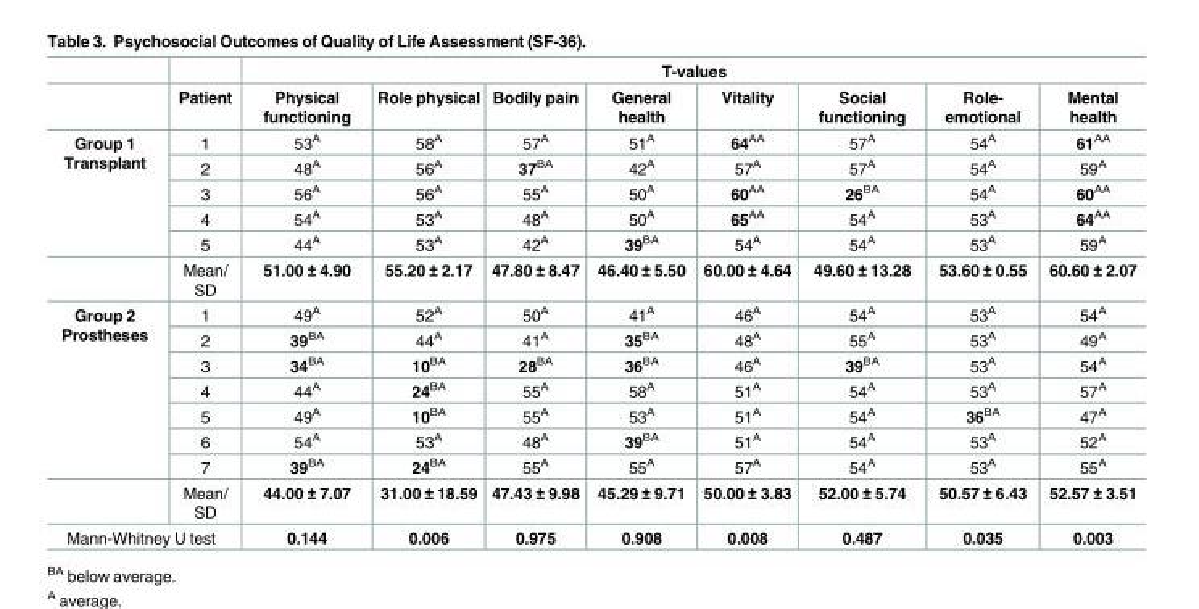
<table><thead><tr><td rowspan="2"></td><td rowspan="2">Patient</td><td colspan="8">T-values</td></tr><tr><td>Physical functioning</td><td>Role physical</td><td>Bodily pain</td><td>General health</td><td>Vitality</td><td>Social functioning</td><td>Role- emotional</td><td>Mental health</td></tr></thead><tbody><tr><td rowspan="6">Group 1 Transplant</td><td>1</td><td>53<sup>A</sup></td><td>58<sup>A</sup></td><td>57<sup>A</sup></td><td>51<sup>A</sup></td><td>64<sup>AA</sup></td><td>57<sup>A</sup></td><td>54<sup>A</sup></td><td>61<sup>AA</sup></td></tr><tr><td>2</td><td>48<sup>A</sup></td><td>56<sup>A</sup></td><td>37<sup>BA</sup></td><td>42<sup>A</sup></td><td>57<sup>A</sup></td><td>57<sup>A</sup></td><td>54<sup>A</sup></td><td>59<sup>A</sup></td></tr><tr><td>3</td><td>56<sup>A</sup></td><td>56<sup>A</sup></td><td>55<sup>A</sup></td><td>50<sup>A</sup></td><td>60<sup>AA</sup></td><td>26<sup>BA</sup></td><td>54<sup>A</sup></td><td>60<sup>AA</sup></td></tr><tr><td>4</td><td>54<sup>A</sup></td><td>53<sup>A</sup></td><td>48<sup>A</sup></td><td>50<sup>A</sup></td><td>65<sup>AA</sup></td><td>54<sup>A</sup></td><td>53<sup>A</sup></td><td>64<sup>AA</sup></td></tr><tr><td>5</td><td>44<sup>A</sup></td><td>53<sup>A</sup></td><td>42<sup>A</sup></td><td>39<sup>BA</sup></td><td>54<sup>A</sup></td><td>54<sup>A</sup></td><td>53<sup>A</sup></td><td>59<sup>A</sup></td></tr><tr><td>Mean/ SD</td><td>51.00 ± 4.90</td><td>55.20 ± 2.17</td><td>47.80 ± 8.47</td><td>46.40 ± 5.50</td><td>60.00 ± 4.64</td><td>49.60 ± 13.28</td><td>53.60 ± 0.55</td><td>60.60 ± 2.07</td></tr><tr><td rowspan="8">Group 2 Prostheses</td><td>1</td><td>49<sup>A</sup></td><td>52<sup>A</sup></td><td>50<sup>A</sup></td><td>41<sup>A</sup></td><td>46<sup>A</sup></td><td>54<sup>A</sup></td><td>53<sup>A</sup></td><td>54<sup>A</sup></td></tr><tr><td>2</td><td>39<sup>BA</sup></td><td>44<sup>A</sup></td><td>41<sup>A</sup></td><td>35<sup>BA</sup></td><td>48<sup>A</sup></td><td>55<sup>A</sup></td><td>53<sup>A</sup></td><td>49<sup>A</sup></td></tr><tr><td>3</td><td>34<sup>BA</sup></td><td>10<sup>BA</sup></td><td>28<sup>BA</sup></td><td>36<sup>BA</sup></td><td>46<sup>A</sup></td><td>39<sup>BA</sup></td><td>53<sup>A</sup></td><td>54<sup>A</sup></td></tr><tr><td>4</td><td>44<sup>A</sup></td><td>24<sup>BA</sup></td><td>55<sup>A</sup></td><td>58<sup>A</sup></td><td>51<sup>A</sup></td><td>54<sup>A</sup></td><td>53<sup>A</sup></td><td>57<sup>A</sup></td></tr><tr><td>5</td><td>49<sup>A</sup></td><td>10<sup>BA</sup></td><td>55<sup>A</sup></td><td>53<sup>A</sup></td><td>51<sup>A</sup></td><td>54<sup>A</sup></td><td>36<sup>BA</sup></td><td>47<sup>A</sup></td></tr><tr><td>6</td><td>54<sup>A</sup></td><td>53<sup>A</sup></td><td>48<sup>A</sup></td><td>39<sup>BA</sup></td><td>51<sup>A</sup></td><td>54<sup>A</sup></td><td>53<sup>A</sup></td><td>52<sup>A</sup></td></tr><tr><td>7</td><td>39<sup>BA</sup></td><td>24<sup>BA</sup></td><td>55<sup>A</sup></td><td>55<sup>A</sup></td><td>57<sup>A</sup></td><td>54<sup>A</sup></td><td>53<sup>A</sup></td><td>55<sup>A</sup></td></tr><tr><td>Mean/ SD</td><td>44.00 ± 7.07</td><td>31.00 ± 18.59</td><td>47.43 ± 9.98</td><td>45.29 ± 9.71</td><td>50.00 ± 3.83</td><td>52.00 ± 5.74</td><td>50.57 ± 6.43</td><td>52.57 ± 3.51</td></tr><tr><td colspan="2">Mann-Whitney U test</td><td>0.144</td><td>0.006</td><td>0.975</td><td>0.908</td><td>0.008</td><td>0.487</td><td>0.035</td><td>0.003</td></tr></tbody></table>